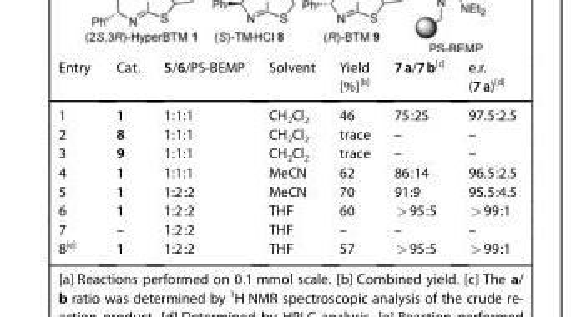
<table><thead><tr><td>Entry</td><td>Cat.</td><td>5/6/PS-BEMP</td><td>Solvent</td><td>Yield [%]<sup>[b]</sup></td><td>7a/7b<sup>[c]</sup></td><td>e.r. (7a)<sup>[d]</sup></td></tr></thead><tbody><tr><td>1</td><td>1</td><td>1:1:1</td><td>CH<sub>2</sub>Cl<sub>2</sub></td><td>46</td><td>75:25</td><td>97.5:2.5</td></tr><tr><td>2</td><td>8</td><td>1:1:1</td><td>CH<sub>2</sub>Cl<sub>2</sub></td><td>trace</td><td>–</td><td>–</td></tr><tr><td>3</td><td>9</td><td>1:1:1</td><td>CH<sub>2</sub>Cl<sub>2</sub></td><td>trace</td><td>–</td><td>–</td></tr><tr><td>4</td><td>1</td><td>1:1:1</td><td>MeCN</td><td>62</td><td>86:14</td><td>96.5:2.5</td></tr><tr><td>5</td><td>1</td><td>1:2:2</td><td>MeCN</td><td>70</td><td>91:9</td><td>95.5:4.5</td></tr><tr><td>6</td><td>1</td><td>1:2:2</td><td>THF</td><td>60</td><td>&gt;95:5</td><td>&gt;99:1</td></tr><tr><td>7</td><td>–</td><td>1:2:2</td><td>THF</td><td>–</td><td>–</td><td>–</td></tr><tr><td>8<sup>[e]</sup></td><td>1</td><td>1:2:2</td><td>THF</td><td>57</td><td>&gt;95:5</td><td>&gt;99:1</td></tr></tbody></table>